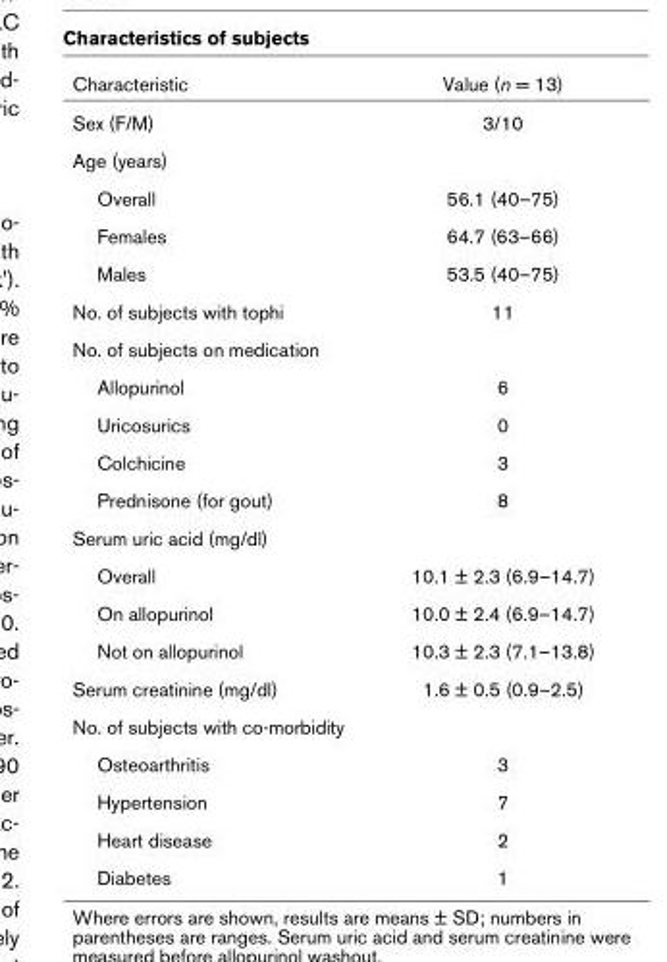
<table><thead><tr><td>Characteristic</td><td>Value (n = 13)</td></tr></thead><tbody><tr><td>Sex (F/M)</td><td>3/10</td></tr><tr><td colspan="2">Age (years)</td></tr><tr><td>Overall</td><td>56.1 (40–75)</td></tr><tr><td>Females</td><td>64.7 (63–66)</td></tr><tr><td>Males</td><td>53.5 (40–75)</td></tr><tr><td>No. of subjects with tophi</td><td>11</td></tr><tr><td colspan="2">No. of subjects on medication</td></tr><tr><td>Allopurinol</td><td>6</td></tr><tr><td>Uricosurics</td><td>0</td></tr><tr><td>Colchicine</td><td>3</td></tr><tr><td>Prednisone (for gout)</td><td>8</td></tr><tr><td colspan="2">Serum uric acid (mg/dl)</td></tr><tr><td>Overall</td><td>10.1 ± 2.3 (6.9–14.7)</td></tr><tr><td>On allopurinol</td><td>10.0 ± 2.4 (6.9–14.7)</td></tr><tr><td>Not on allopurinol</td><td>10.3 ± 2.3 (7.1–13.8)</td></tr><tr><td>Serum creatinine (mg/dl)</td><td>1.6 ± 0.5 (0.9–2.5)</td></tr><tr><td colspan="2">No. of subjects with co-morbidity</td></tr><tr><td>Osteoarthritis</td><td>3</td></tr><tr><td>Hypertension</td><td>7</td></tr><tr><td>Heart disease</td><td>2</td></tr><tr><td>Diabetes</td><td>1</td></tr></tbody></table>